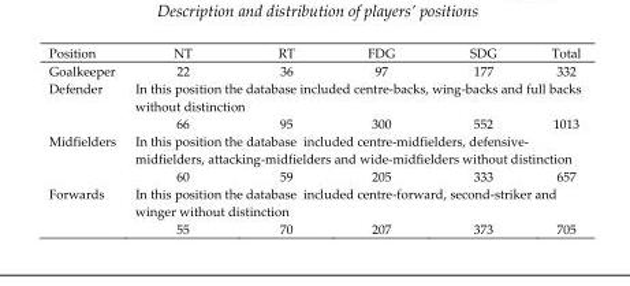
<table><thead><tr><td>Position</td><td>NT</td><td>RT</td><td>FDG</td><td>SDG</td><td>Total</td></tr></thead><tbody><tr><td>Goalkeeper</td><td>22</td><td>36</td><td>97</td><td>177</td><td>332</td></tr><tr><td rowspan="2">Defender</td><td colspan="5">In this position the database included centre-backs, wing-backs and full backs without distinction</td></tr><tr><td>66</td><td>95</td><td>300</td><td>552</td><td>1013</td></tr><tr><td rowspan="2">Midfielders</td><td colspan="5">In this position the database included centre-midfielders, defensive- midfielders, attacking-midfielders and wide-midfielders without distinction</td></tr><tr><td>60</td><td>59</td><td>205</td><td>333</td><td>657</td></tr><tr><td rowspan="2">Forwards</td><td colspan="5">In this position the database included centre-forward, second-striker and winger without distinction</td></tr><tr><td>55</td><td>70</td><td>207</td><td>373</td><td>705</td></tr></tbody></table>